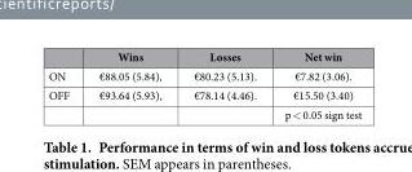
<table><thead><tr><td></td><td>Wins</td><td>Losses</td><td>Net win</td></tr></thead><tbody><tr><td>ON</td><td>€88.05 (5.84),</td><td>€80.23 (5.13).</td><td>€7.82 (3.06).</td></tr><tr><td rowspan="2">OFF</td><td>€93.64 (5.93),</td><td>€78.14 (4.46).</td><td>€15.50 (3.40)</td></tr><tr><td></td><td></td><td>p &lt; 0.05 sign test</td></tr></tbody></table>